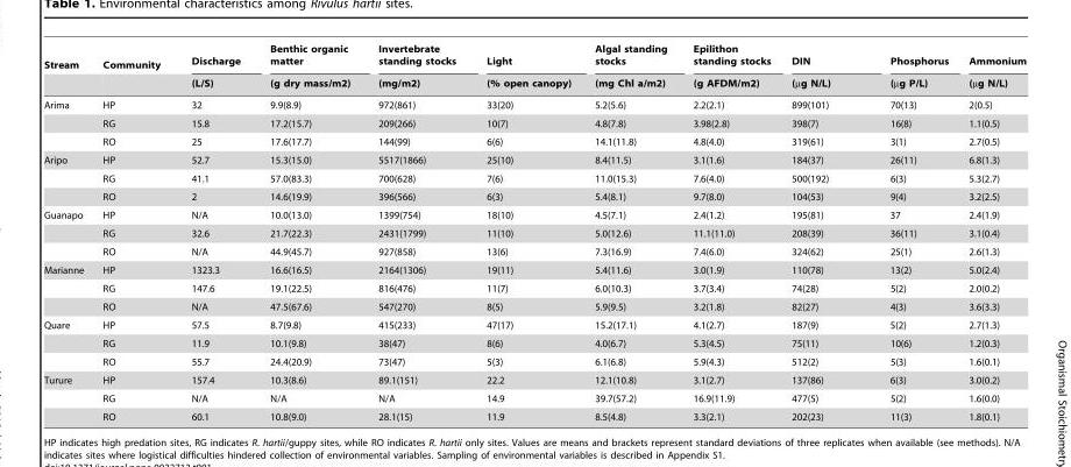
<table><thead><tr><td rowspan="2">Stream</td><td rowspan="2">Community</td><td rowspan="2">Discharge (L/S)</td><td rowspan="2">Benthic organic matter (g dry mass/m2)</td><td rowspan="2">Invertebrate standing stocks (mg/m2)</td><td rowspan="2">Light (% open canopy)</td><td rowspan="2">Algal standing stocks (mg Chl a/m2)</td><td rowspan="2">Epilithon standing stocks (g AFDM/m2)</td><td rowspan="2">DIN (µg N/L)</td><td rowspan="2">Phosphorus (µg P/L)</td><td rowspan="2">Ammonium (µg N/L)</td></tr><tr></tr></thead><tbody><tr><td rowspan="3">Arima</td><td>HP</td><td>32</td><td>9.9(8.9)</td><td>972(861)</td><td>33(20)</td><td>5.2(5.6)</td><td>2.2(2.1)</td><td>899(101)</td><td>70(13)</td><td>2(0.5)</td></tr><tr><td>RG</td><td>15.8</td><td>17.2(15.7)</td><td>209(266)</td><td>10(7)</td><td>4.8(7.8)</td><td>3.98(2.8)</td><td>398(7)</td><td>16(8)</td><td>1.1(0.5)</td></tr><tr><td>RO</td><td>25</td><td>17.6(17.7)</td><td>144(99)</td><td>6(6)</td><td>14.1(11.8)</td><td>4.8(4.0)</td><td>319(61)</td><td>3(1)</td><td>2.7(0.5)</td></tr><tr><td rowspan="3">Aripo</td><td>HP</td><td>52.7</td><td>15.3(15.0)</td><td>5517(1866)</td><td>25(10)</td><td>8.4(11.5)</td><td>3.1(1.6)</td><td>184(37)</td><td>26(11)</td><td>6.8(1.3)</td></tr><tr><td>RG</td><td>41.1</td><td>57.0(83.3)</td><td>700(628)</td><td>7(6)</td><td>11.0(15.3)</td><td>7.6(4.0)</td><td>500(192)</td><td>6(3)</td><td>5.3(2.7)</td></tr><tr><td>RO</td><td>2</td><td>14.6(19.9)</td><td>396(566)</td><td>6(3)</td><td>5.4(8.1)</td><td>9.7(8.0)</td><td>104(53)</td><td>9(4)</td><td>3.2(2.5)</td></tr><tr><td rowspan="3">Guanapo</td><td>HP</td><td>N/A</td><td>10.0(13.0)</td><td>1399(754)</td><td>18(10)</td><td>4.5(7.1)</td><td>2.4(1.2)</td><td>195(81)</td><td>37</td><td>2.4(1.9)</td></tr><tr><td>RG</td><td>32.6</td><td>21.7(22.3)</td><td>2431(1799)</td><td>11(10)</td><td>5.0(12.6)</td><td>11.1(11.0)</td><td>208(39)</td><td>36(11)</td><td>3.1(0.4)</td></tr><tr><td>RO</td><td>N/A</td><td>44.9(45.7)</td><td>927(858)</td><td>13(6)</td><td>7.3(16.9)</td><td>7.4(6.0)</td><td>324(62)</td><td>25(1)</td><td>2.6(1.3)</td></tr><tr><td rowspan="3">Marianne</td><td>HP</td><td>1323.3</td><td>16.6(16.5)</td><td>2164(1306)</td><td>19(11)</td><td>5.4(11.6)</td><td>3.0(1.9)</td><td>110(78)</td><td>13(2)</td><td>5.0(2.4)</td></tr><tr><td>RG</td><td>147.6</td><td>19.1(22.5)</td><td>816(476)</td><td>11(7)</td><td>6.0(10.3)</td><td>3.7(3.4)</td><td>74(28)</td><td>5(2)</td><td>2.0(0.2)</td></tr><tr><td>RO</td><td>N/A</td><td>47.5(67.6)</td><td>547(270)</td><td>8(5)</td><td>5.9(9.5)</td><td>3.2(1.8)</td><td>82(27)</td><td>4(3)</td><td>3.6(3.3)</td></tr><tr><td rowspan="3">Quare</td><td>HP</td><td>57.5</td><td>8.7(9.8)</td><td>415(233)</td><td>47(17)</td><td>15.2(17.1)</td><td>4.1(2.7)</td><td>187(9)</td><td>5(2)</td><td>2.7(1.3)</td></tr><tr><td>RG</td><td>11.9</td><td>10.1(9.8)</td><td>38(47)</td><td>8(6)</td><td>4.0(6.7)</td><td>5.3(4.5)</td><td>75(11)</td><td>10(6)</td><td>1.2(0.3)</td></tr><tr><td>RO</td><td>55.7</td><td>24.4(20.9)</td><td>73(47)</td><td>5(3)</td><td>6.1(6.8)</td><td>5.9(4.3)</td><td>512(2)</td><td>5(3)</td><td>1.6(0.1)</td></tr><tr><td rowspan="3">Turure</td><td>HP</td><td>157.4</td><td>10.3(8.6)</td><td>89.1(151)</td><td>22.2</td><td>12.1(10.8)</td><td>3.1(2.7)</td><td>137(86)</td><td>6(3)</td><td>3.0(0.2)</td></tr><tr><td>RG</td><td>N/A</td><td>N/A</td><td>N/A</td><td>14.9</td><td>39.7(57.2)</td><td>16.9(11.9)</td><td>477(5)</td><td>5(2)</td><td>1.6(0.0)</td></tr><tr><td>RO</td><td>60.1</td><td>10.8(9.0)</td><td>28.1(15)</td><td>11.9</td><td>8.5(4.8)</td><td>3.3(2.1)</td><td>202(23)</td><td>11(3)</td><td>1.8(0.1)</td></tr></tbody></table>